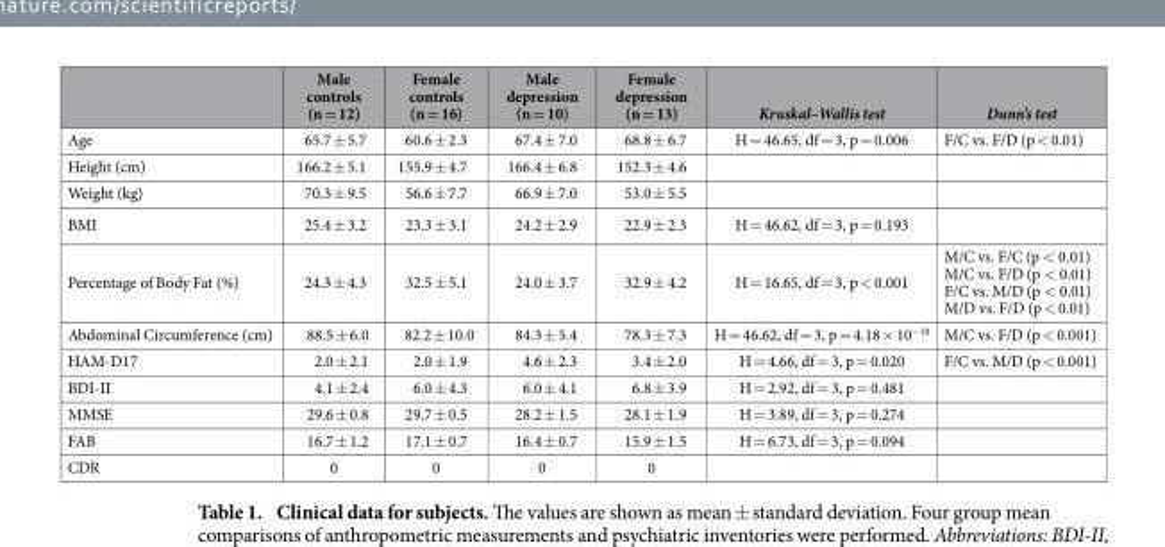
<table><thead><tr><td></td><td>Male controls (n = 12)</td><td>Female controls (n = 16)</td><td>Male depression (n = 10)</td><td>Female depression (n = 13)</td><td>Kruskal–Wallis test</td><td>Dunn’s test</td></tr></thead><tbody><tr><td>Age</td><td>65.7 ± 5.7</td><td>60.6 ± 2.3</td><td>67.4 ± 7.0</td><td>68.8 ± 6.7</td><td>H = 46.65, df = 3, p = 0.006</td><td>F/C vs. F/D (p &lt; 0.01)</td></tr><tr><td>Height (cm)</td><td>166.2 ± 5.1</td><td>155.9 ± 4.7</td><td>166.4 ± 6.8</td><td>152.3 ± 4.6</td><td></td><td></td></tr><tr><td>Weight (kg)</td><td>70.3 ± 9.5</td><td>56.6 ± 7.7</td><td>66.9 ± 7.0</td><td>53.0 ± 5.5</td><td></td><td></td></tr><tr><td>BMI</td><td>25.4 ± 3.2</td><td>23.3 ± 3.1</td><td>24.2 ± 2.9</td><td>22.9 ± 2.3</td><td>H = 46.62, df = 3, p = 0.193</td><td></td></tr><tr><td>Percentage of Body Fat (%)</td><td>24.3 ± 4.3</td><td>32.5 ± 5.1</td><td>24.0 ± 3.7</td><td>32.9 ± 4.2</td><td>H = 16.65, df = 3, p &lt; 0.001</td><td>M/C vs. F/C (p &lt; 0.01) M/C vs. F/D (p &lt; 0.01) F/C vs. M/D (p &lt; 0.01) M/D vs. F/D (p &lt; 0.01)</td></tr><tr><td>Abdominal Circumference (cm)</td><td>88.5 ± 6.0</td><td>82.2 ± 10.0</td><td>84.3 ± 5.4</td><td>78.3 ± 7.3</td><td>H = 46.62, df = 3, p = 4.18 × 10<sup>−10</sup></td><td>M/C vs. F/D (p &lt; 0.001)</td></tr><tr><td>HAM-D17</td><td>2.0 ± 2.1</td><td>2.0 ± 1.9</td><td>4.6 ± 2.3</td><td>3.4 ± 2.0</td><td>H = 4.66, df = 3, p = 0.020</td><td>F/C vs. M/D (p &lt; 0.001)</td></tr><tr><td>BDI-II</td><td>4.1 ± 2.4</td><td>6.0 ± 4.3</td><td>6.0 ± 4.1</td><td>6.8 ± 3.9</td><td>H = 2.92, df = 3, p = 0.481</td><td></td></tr><tr><td>MMSE</td><td>29.6 ± 0.8</td><td>29.7 ± 0.5</td><td>28.2 ± 1.5</td><td>28.1 ± 1.9</td><td>H = 3.89, df = 3, p = 0.274</td><td></td></tr><tr><td>FAB</td><td>16.7 ± 1.2</td><td>17.1 ± 0.7</td><td>16.4 ± 0.7</td><td>15.9 ± 1.5</td><td>H = 6.73, df = 3, p = 0.094</td><td></td></tr><tr><td>CDR</td><td>0</td><td>0</td><td>0</td><td>0</td><td></td><td></td></tr></tbody></table>